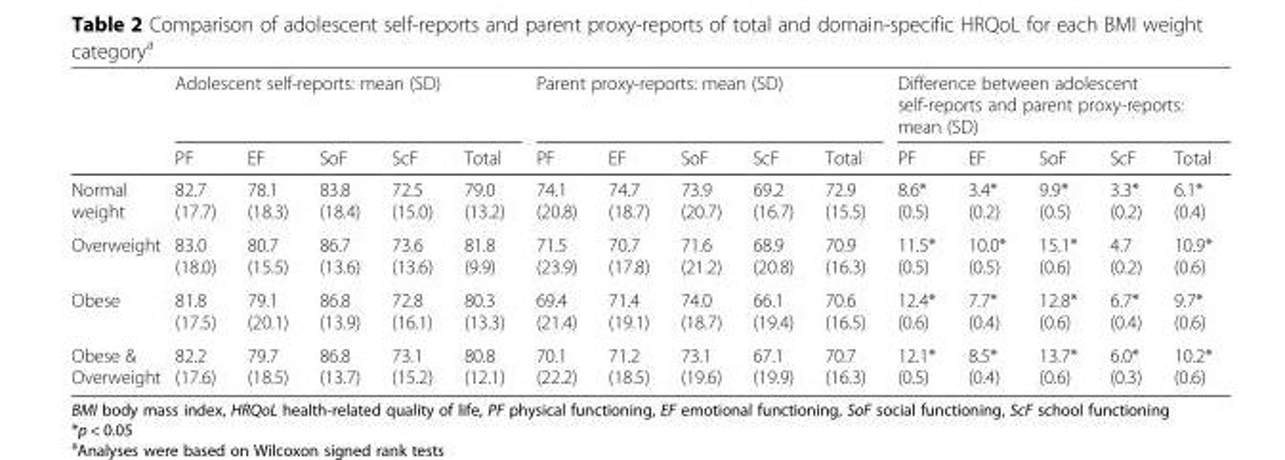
<table><thead><tr><td rowspan="2"></td><td colspan="5">Adolescent self-reports: mean (SD)</td><td colspan="5">Parent proxy-reports: mean (SD)</td><td colspan="5">Difference between adolescent self-reports and parent proxy-reports: mean (SD)</td></tr><tr><td>PF</td><td>EF</td><td>SoF</td><td>ScF</td><td>Total</td><td>PF</td><td>EF</td><td>SoF</td><td>ScF</td><td>Total</td><td>PF</td><td>EF</td><td>SoF</td><td>ScF</td><td>Total</td></tr></thead><tbody><tr><td>Normal weight</td><td>82.7 (17.7)</td><td>78.1 (18.3)</td><td>83.8 (18.4)</td><td>72.5 (15.0)</td><td>79.0 (13.2)</td><td>74.1 (20.8)</td><td>74.7 (18.7)</td><td>73.9 (20.7)</td><td>69.2 (16.7)</td><td>72.9 (15.5)</td><td>8.6* (0.5)</td><td>3.4* (0.2)</td><td>9.9* (0.5)</td><td>3.3* (0.2)</td><td>6.1* (0.4)</td></tr><tr><td>Overweight</td><td>83.0 (18.0)</td><td>80.7 (15.5)</td><td>86.7 (13.6)</td><td>73.6 (13.6)</td><td>81.8 (9.9)</td><td>71.5 (23.9)</td><td>70.7 (17.8)</td><td>71.6 (21.2)</td><td>68.9 (20.8)</td><td>70.9 (16.3)</td><td>11.5* (0.5)</td><td>10.0* (0.5)</td><td>15.1* (0.6)</td><td>4.7 (0.2)</td><td>10.9* (0.6)</td></tr><tr><td>Obese</td><td>81.8 (17.5)</td><td>79.1 (20.1)</td><td>86.8 (13.9)</td><td>72.8 (16.1)</td><td>80.3 (13.3)</td><td>69.4 (21.4)</td><td>71.4 (19.1)</td><td>74.0 (18.7)</td><td>66.1 (19.4)</td><td>70.6 (16.5)</td><td>12.4* (0.6)</td><td>7.7* (0.4)</td><td>12.8* (0.6)</td><td>6.7* (0.4)</td><td>9.7* (0.6)</td></tr><tr><td>Obese &amp; Overweight</td><td>82.2 (17.6)</td><td>79.7 (18.5)</td><td>86.8 (13.7)</td><td>73.1 (15.2)</td><td>80.8 (12.1)</td><td>70.1 (22.2)</td><td>71.2 (18.5)</td><td>73.1 (19.6)</td><td>67.1 (19.9)</td><td>70.7 (16.3)</td><td>12.1* (0.5)</td><td>8.5* (0.4)</td><td>13.7* (0.6)</td><td>6.0* (0.3)</td><td>10.2* (0.6)</td></tr></tbody></table>